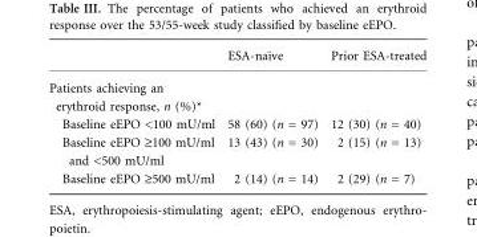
<table><thead><tr><td></td><td>ESA-naı¨ve</td><td>Prior ESA-treated</td></tr></thead><tbody><tr><td colspan="3">Patients achieving an erythroid response, n (%)*</td></tr><tr><td>Baseline eEPO &lt;100 mU/ml</td><td>58 (60) (n = 97)</td><td>12 (30) (n = 40)</td></tr><tr><td>Baseline eEPO ‡100 mU/ml and &lt;500 mU/ml</td><td>13 (43) (n = 30)</td><td>2 (15) (n = 13)</td></tr><tr><td>Baseline eEPO ‡500 mU/ml</td><td>2 (14) (n = 14)</td><td>2 (29) (n = 7)</td></tr></tbody></table>